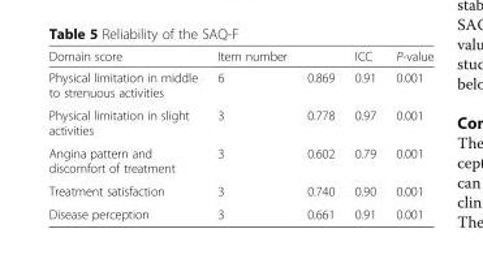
<table><thead><tr><td>Domain score</td><td>Item number</td><td></td><td>ICC</td><td>P-value</td></tr></thead><tbody><tr><td>Physical limitation in middle to strenuous activities</td><td>6</td><td>0.869</td><td>0.91</td><td>0.001</td></tr><tr><td>Physical limitation in slight activities</td><td>3</td><td>0.778</td><td>0.97</td><td>0.001</td></tr><tr><td>Angina pattern and discomfort of treatment</td><td>3</td><td>0.602</td><td>0.79</td><td>0.001</td></tr><tr><td>Treatment satisfaction</td><td>3</td><td>0.740</td><td>0.90</td><td>0.001</td></tr><tr><td>Disease perception</td><td>3</td><td>0.661</td><td>0.91</td><td>0.001</td></tr></tbody></table>